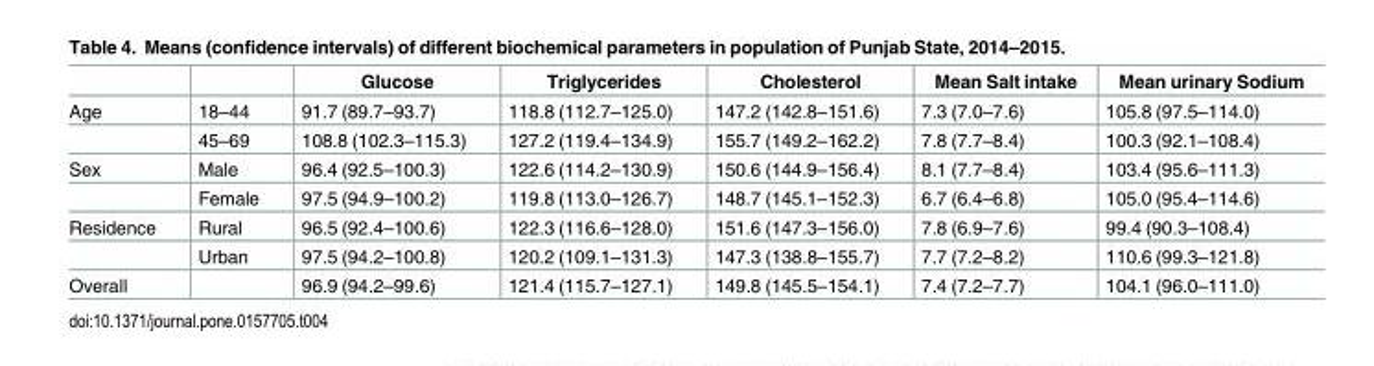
<table><thead><tr><td></td><td></td><td>Glucose</td><td>Triglycerides</td><td>Cholesterol</td><td>Mean Salt intake</td><td>Mean urinary Sodium</td></tr></thead><tbody><tr><td rowspan="2">Age</td><td>18–44</td><td>91.7 (89.7–93.7)</td><td>118.8 (112.7–125.0)</td><td>147.2 (142.8–151.6)</td><td>7.3 (7.0–7.6)</td><td>105.8 (97.5–114.0)</td></tr><tr><td>45–69</td><td>108.8 (102.3–115.3)</td><td>127.2 (119.4–134.9)</td><td>155.7 (149.2–162.2)</td><td>7.8 (7.7–8.4)</td><td>100.3 (92.1–108.4)</td></tr><tr><td rowspan="2">Sex</td><td>Male</td><td>96.4 (92.5–100.3)</td><td>122.6 (114.2–130.9)</td><td>150.6 (144.9–156.4)</td><td>8.1 (7.7–8.4)</td><td>103.4 (95.6–111.3)</td></tr><tr><td>Female</td><td>97.5 (94.9–100.2)</td><td>119.8 (113.0–126.7)</td><td>148.7 (145.1–152.3)</td><td>6.7 (6.4–6.8)</td><td>105.0 (95.4–114.6)</td></tr><tr><td rowspan="2">Residence</td><td>Rural</td><td>96.5 (92.4–100.6)</td><td>122.3 (116.6–128.0)</td><td>151.6 (147.3–156.0)</td><td>7.8 (6.9–7.6)</td><td>99.4 (90.3–108.4)</td></tr><tr><td>Urban</td><td>97.5 (94.2–100.8)</td><td>120.2 (109.1–131.3)</td><td>147.3 (138.8–155.7)</td><td>7.7 (7.2–8.2)</td><td>110.6 (99.3–121.8)</td></tr><tr><td>Overall</td><td></td><td>96.9 (94.2–99.6)</td><td>121.4 (115.7–127.1)</td><td>149.8 (145.5–154.1)</td><td>7.4 (7.2–7.7)</td><td>104.1 (96.0–111.0)</td></tr></tbody></table>